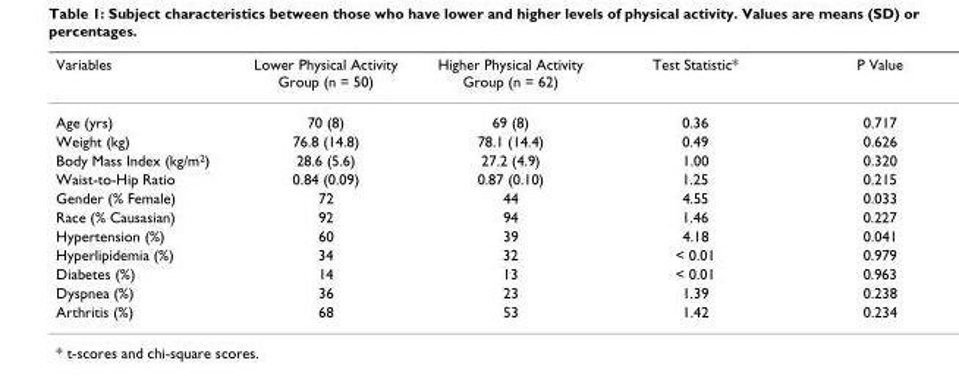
<table><thead><tr><td>Variables</td><td>Lower Physical Activity Group (n = 50)</td><td>Higher Physical Activity Group (n = 62)</td><td>Test Statistic*</td><td>P Value</td></tr></thead><tbody><tr><td>Age (yrs)</td><td>70 (8)</td><td>69 (8)</td><td>0.36</td><td>0.717</td></tr><tr><td>Weight (kg)</td><td>76.8 (14.8)</td><td>78.1 (14.4)</td><td>0.49</td><td>0.626</td></tr><tr><td>Body Mass Index (kg/m<sup>2</sup>)</td><td>28.6 (5.6)</td><td>27.2 (4.9)</td><td>1.00</td><td>0.320</td></tr><tr><td>Waist-to-Hip Ratio</td><td>0.84 (0.09)</td><td>0.87 (0.10)</td><td>1.25</td><td>0.215</td></tr><tr><td>Gender (% Female)</td><td>72</td><td>44</td><td>4.55</td><td>0.033</td></tr><tr><td>Race (% Causasian)</td><td>92</td><td>94</td><td>1.46</td><td>0.227</td></tr><tr><td>Hypertension (%)</td><td>60</td><td>39</td><td>4.18</td><td>0.041</td></tr><tr><td>Hyperlipidemia (%)</td><td>34</td><td>32</td><td>&lt; 0.01</td><td>0.979</td></tr><tr><td>Diabetes (%)</td><td>14</td><td>13</td><td>&lt; 0.01</td><td>0.963</td></tr><tr><td>Dyspnea (%)</td><td>36</td><td>23</td><td>1.39</td><td>0.238</td></tr><tr><td>Arthritis (%)</td><td>68</td><td>53</td><td>1.42</td><td>0.234</td></tr></tbody></table>